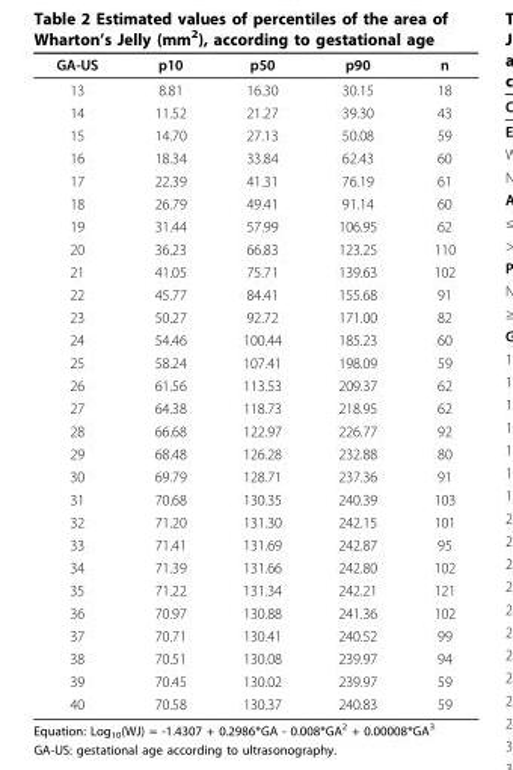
<table><thead><tr><td>GA-US</td><td>p10</td><td>p50</td><td>p90</td><td>n</td></tr></thead><tbody><tr><td>13</td><td>8.81</td><td>16.30</td><td>30.15</td><td>18</td></tr><tr><td>14</td><td>11.52</td><td>21.27</td><td>39.30</td><td>43</td></tr><tr><td>15</td><td>14.70</td><td>27.13</td><td>50.08</td><td>59</td></tr><tr><td>16</td><td>18.34</td><td>33.84</td><td>62.43</td><td>60</td></tr><tr><td>17</td><td>22.39</td><td>41.31</td><td>76.19</td><td>61</td></tr><tr><td>18</td><td>26.79</td><td>49.41</td><td>91.14</td><td>60</td></tr><tr><td>19</td><td>31.44</td><td>57.99</td><td>106.95</td><td>62</td></tr><tr><td>20</td><td>36.23</td><td>66.83</td><td>123.25</td><td>110</td></tr><tr><td>21</td><td>41.05</td><td>75.71</td><td>139.63</td><td>102</td></tr><tr><td>22</td><td>45.77</td><td>84.41</td><td>155.68</td><td>91</td></tr><tr><td>23</td><td>50.27</td><td>92.72</td><td>171.00</td><td>82</td></tr><tr><td>24</td><td>54.46</td><td>100.44</td><td>185.23</td><td>60</td></tr><tr><td>25</td><td>58.24</td><td>107.41</td><td>198.09</td><td>59</td></tr><tr><td>26</td><td>61.56</td><td>113.53</td><td>209.37</td><td>62</td></tr><tr><td>27</td><td>64.38</td><td>118.73</td><td>218.95</td><td>62</td></tr><tr><td>28</td><td>66.68</td><td>122.97</td><td>226.77</td><td>92</td></tr><tr><td>29</td><td>68.48</td><td>126.28</td><td>232.88</td><td>80</td></tr><tr><td>30</td><td>69.79</td><td>128.71</td><td>237.36</td><td>91</td></tr><tr><td>31</td><td>70.68</td><td>130.35</td><td>240.39</td><td>103</td></tr><tr><td>32</td><td>71.20</td><td>131.30</td><td>242.15</td><td>101</td></tr><tr><td>33</td><td>71.41</td><td>131.69</td><td>242.87</td><td>95</td></tr><tr><td>34</td><td>71.39</td><td>131.66</td><td>242.80</td><td>102</td></tr><tr><td>35</td><td>71.22</td><td>131.34</td><td>242.21</td><td>121</td></tr><tr><td>36</td><td>70.97</td><td>130.88</td><td>241.36</td><td>102</td></tr><tr><td>37</td><td>70.71</td><td>130.41</td><td>240.52</td><td>99</td></tr><tr><td>38</td><td>70.51</td><td>130.08</td><td>239.97</td><td>94</td></tr><tr><td>39</td><td>70.45</td><td>130.02</td><td>239.97</td><td>59</td></tr><tr><td>40</td><td>70.58</td><td>130.37</td><td>240.83</td><td>59</td></tr></tbody></table>